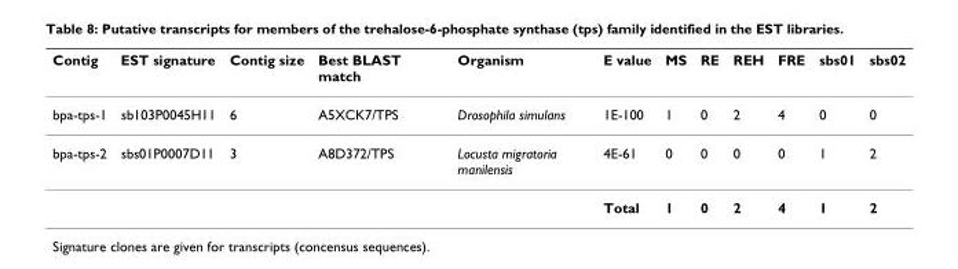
<table><thead><tr><td>Contig</td><td>EST signature</td><td>Contig size</td><td>Best BLAST match</td><td>Organism</td><td>E value</td><td>MS</td><td>RE</td><td>REH</td><td>FRE</td><td>sbs01</td><td>sbs02</td></tr></thead><tbody><tr><td>bpa-tps-1</td><td>sb103P0045H11</td><td>6</td><td>A5XCK7/TPS</td><td>Drosophila simulans</td><td>1E-100</td><td>1</td><td>0</td><td>2</td><td>4</td><td>0</td><td>0</td></tr><tr><td rowspan="2">bpa-tps-2</td><td>sbs01P0007D11</td><td>3</td><td>A8D372/TPS</td><td>Locusta migratoria manilensis</td><td>4E-61</td><td>0</td><td>0</td><td>0</td><td>0</td><td>1</td><td>2</td></tr><tr><td></td><td></td><td></td><td></td><td>Total</td><td>1</td><td>0</td><td>2</td><td>4</td><td>1</td><td>2</td></tr></tbody></table>